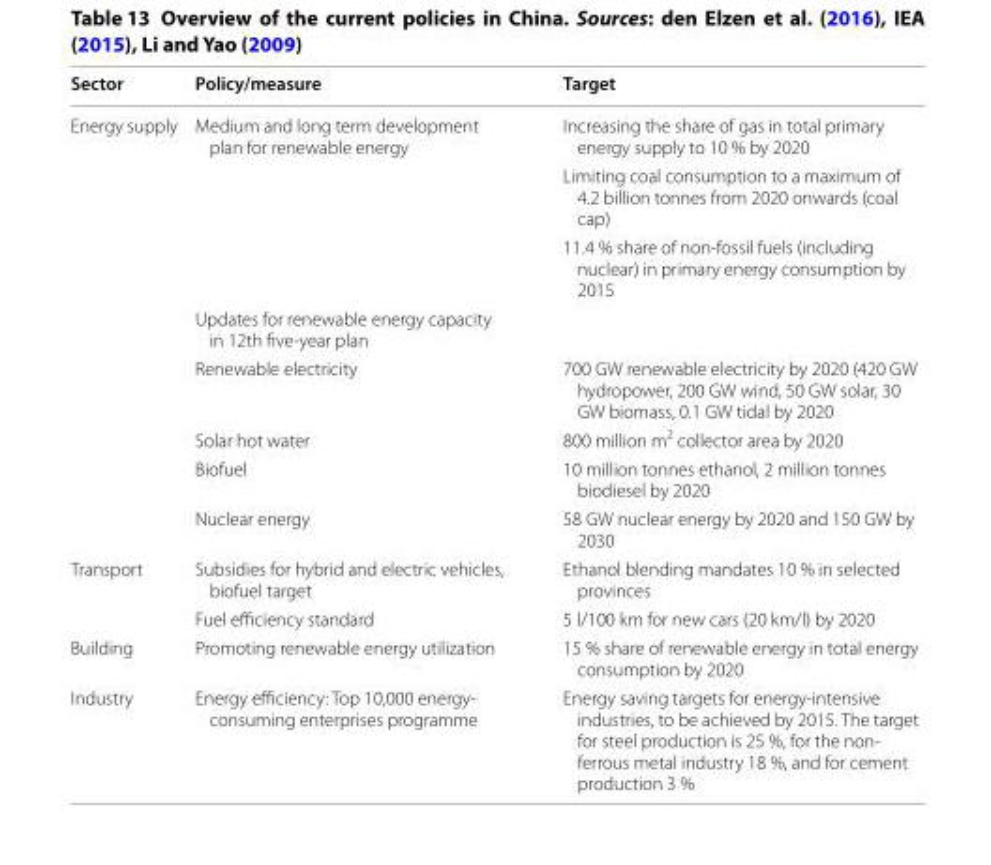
<table><thead><tr><td>Sector</td><td>Policy/measure</td><td>Target</td></tr></thead><tbody><tr><td rowspan="8">Energy supply</td><td rowspan="3">Medium and long term development plan for renewable energy</td><td>Increasing the share of gas in total primary energy supply to 10 % by 2020</td></tr><tr><td>Limiting coal consumption to a maximum of 4.2 billion tonnes from 2020 onwards (coal cap)</td></tr><tr><td>11.4 % share of non-fossil fuels (including nuclear) in primary energy consumption by 2015</td></tr><tr><td>Updates for renewable energy capacity in 12th five-year plan</td><td></td></tr><tr><td>Renewable electricity</td><td>700 GW renewable electricity by 2020 (420 GW hydropower, 200 GW wind, 50 GW solar, 30 GW biomass, 0.1 GW tidal by 2020</td></tr><tr><td>Solar hot water</td><td>800 million m<sup>2</sup> collector area by 2020</td></tr><tr><td>Biofuel</td><td>10 million tonnes ethanol, 2 million tonnes biodiesel by 2020</td></tr><tr><td>Nuclear energy</td><td>58 GW nuclear energy by 2020 and 150 GW by 2030</td></tr><tr><td rowspan="2">Transport</td><td>Subsidies for hybrid and electric vehicles, biofuel target</td><td>Ethanol blending mandates 10 % in selected provinces</td></tr><tr><td>Fuel efficiency standard</td><td>5 l/100 km for new cars (20 km/l) by 2020</td></tr><tr><td>Building</td><td>Promoting renewable energy utilization</td><td>15 % share of renewable energy in total energy consumption by 2020</td></tr><tr><td>Industry</td><td>Energy efficiency: Top 10,000 energy- consuming enterprises programme</td><td>Energy saving targets for energy-intensive industries, to be achieved by 2015. The target for steel production is 25 %, for the non- ferrous metal industry 18 %, and for cement production 3 %</td></tr></tbody></table>